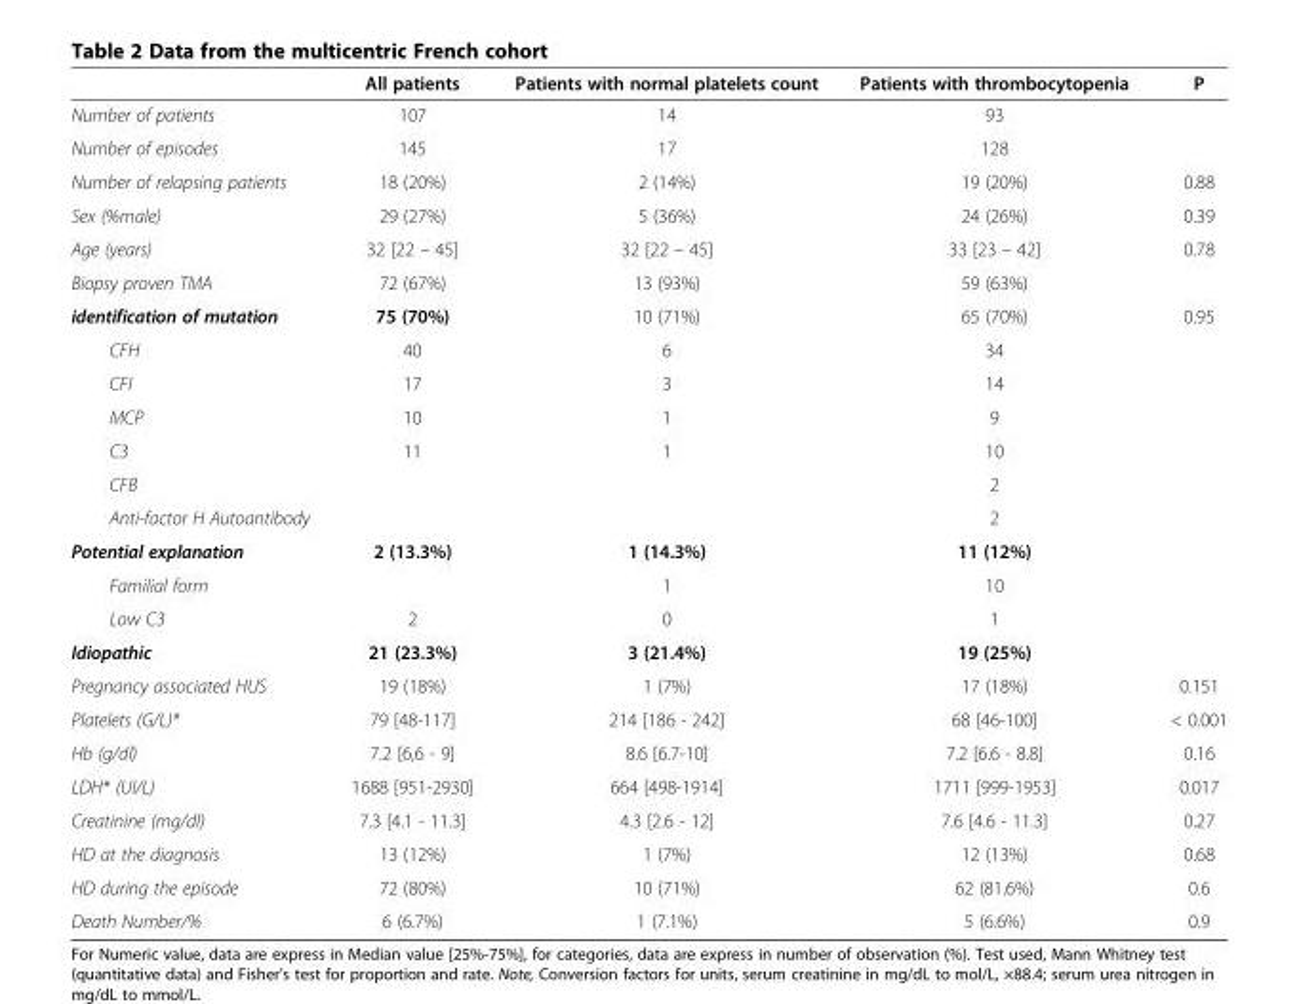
<table><thead><tr><td></td><td>All patients</td><td>Patients with normal platelets count</td><td>Patients with thrombocytopenia</td><td>P</td></tr></thead><tbody><tr><td>Number of patients</td><td>107</td><td>14</td><td>93</td><td></td></tr><tr><td>Number of episodes</td><td>145</td><td>17</td><td>128</td><td></td></tr><tr><td>Number of relapsing patients</td><td>18 (20%)</td><td>2 (14%)</td><td>19 (20%)</td><td>0.88</td></tr><tr><td>Sex (%male)</td><td>29 (27%)</td><td>5 (36%)</td><td>24 (26%)</td><td>0.39</td></tr><tr><td>Age (years)</td><td>32 [22 – 45]</td><td>32 [22 – 45]</td><td>33 [23 – 42]</td><td>0.78</td></tr><tr><td>Biopsy proven TMA</td><td>72 (67%)</td><td>13 (93%)</td><td>59 (63%)</td><td></td></tr><tr><td>identification of mutation</td><td>75 (70%)</td><td>10 (71%)</td><td>65 (70%)</td><td>0.95</td></tr><tr><td>CFH</td><td>40</td><td>6</td><td>34</td><td rowspan="10"></td></tr><tr><td>CFI</td><td>17</td><td>3</td><td>14</td></tr><tr><td>MCP</td><td>10</td><td>1</td><td>9</td></tr><tr><td>C3</td><td>11</td><td>1</td><td>10</td></tr><tr><td>CFB</td><td></td><td></td><td>2</td></tr><tr><td>Anti-factor H Autoantibody</td><td></td><td></td><td>2</td></tr><tr><td>Potential explanation</td><td>2 (13.3%)</td><td>1 (14.3%)</td><td>11 (12%)</td></tr><tr><td>Familial form</td><td></td><td>1</td><td>10</td></tr><tr><td>Low C3</td><td>2</td><td>0</td><td>1</td></tr><tr><td>Idiopathic</td><td>21 (23.3%)</td><td>3 (21.4%)</td><td>19 (25%)</td></tr><tr><td>Pregnancy associated HUS</td><td>19 (18%)</td><td>1 (7%)</td><td>17 (18%)</td><td>0.151</td></tr><tr><td>Platelets (G/L)*</td><td>79 [48-117]</td><td>214 [186 - 242]</td><td>68 [46-100]</td><td>&lt; 0.001</td></tr><tr><td>Hb (g/dl)</td><td>7.2 [6,6 - 9]</td><td>8.6 [6.7-10]</td><td>7.2 [6.6 - 8.8]</td><td>0.16</td></tr><tr><td>LDH* (UI/L)</td><td>1688 [951-2930]</td><td>664 [498-1914]</td><td>1711 [999-1953]</td><td>0.017</td></tr><tr><td>Creatinine (mg/dl)</td><td>7.3 [4.1 - 11.3]</td><td>4.3 [2.6 - 12]</td><td>7.6 [4.6 - 11.3]</td><td>0.27</td></tr><tr><td>HD at the diagnosis</td><td>13 (12%)</td><td>1 (7%)</td><td>12 (13%)</td><td>0.68</td></tr><tr><td>HD during the episode</td><td>72 (80%)</td><td>10 (71%)</td><td>62 (81.6%)</td><td>0.6</td></tr><tr><td>Death Number/%</td><td>6 (6.7%)</td><td>1 (7.1%)</td><td>5 (6.6%)</td><td>0.9</td></tr></tbody></table>